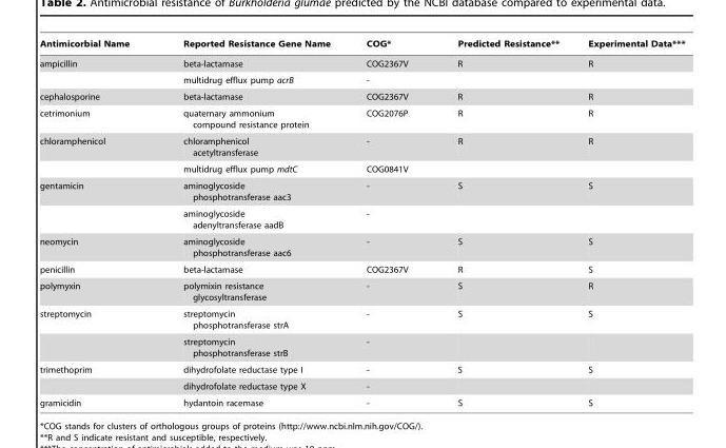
<table><thead><tr><td>Antimicorbial Name</td><td>Reported Resistance Gene Name</td><td>COG*</td><td>Predicted Resistance**</td><td>Experimental Data***</td></tr></thead><tbody><tr><td rowspan="2">ampicillin</td><td>beta-lactamase</td><td>COG2367V</td><td>R</td><td>R</td></tr><tr><td>multidrug efflux pump acrB</td><td>-</td><td></td><td></td></tr><tr><td>cephalosporine</td><td>beta-lactamase</td><td>COG2367V</td><td>R</td><td>R</td></tr><tr><td>cetrimonium</td><td>quaternary ammonium compound resistance protein</td><td>COG2076P</td><td>R</td><td>R</td></tr><tr><td rowspan="2">chloramphenicol</td><td>chloramphenicol acetyltransferase</td><td>-</td><td>R</td><td>R</td></tr><tr><td>multidrug efflux pump mdtC</td><td>COG0841V</td><td></td><td></td></tr><tr><td rowspan="2">gentamicin</td><td>aminoglycoside phosphotransferase aac3</td><td>-</td><td>S</td><td>S</td></tr><tr><td>aminoglycoside adenyltransferase aadB</td><td>-</td><td></td><td></td></tr><tr><td>neomycin</td><td>aminoglycoside phosphotransferase aac6</td><td>-</td><td>S</td><td>S</td></tr><tr><td>penicillin</td><td>beta-lactamase</td><td>COG2367V</td><td>R</td><td>S</td></tr><tr><td>polymyxin</td><td>polymixin resistance glycosyltransferase</td><td>-</td><td>S</td><td>R</td></tr><tr><td rowspan="2">streptomycin</td><td>streptomycin phosphotransferase strA</td><td>-</td><td>S</td><td>S</td></tr><tr><td>streptomycin phosphotransferase strB</td><td>-</td><td></td><td></td></tr><tr><td rowspan="2">trimethoprim</td><td>dihydrofolate reductase type I</td><td>-</td><td>S</td><td>S</td></tr><tr><td>dihydrofolate reductase type X</td><td>-</td><td></td><td></td></tr><tr><td>gramicidin</td><td>hydantoin racemase</td><td>-</td><td>S</td><td>S</td></tr></tbody></table>